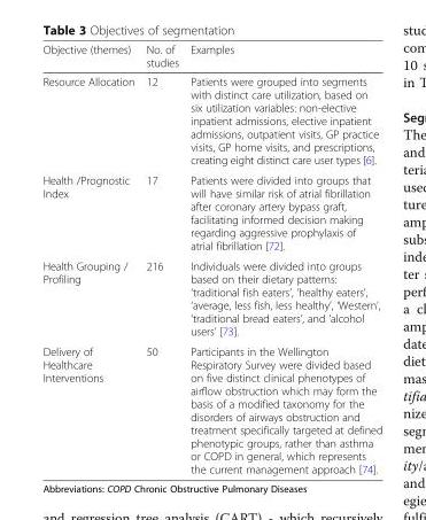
<table><thead><tr><td>Objective (themes)</td><td>No. of studies</td><td>Examples</td></tr></thead><tbody><tr><td>Resource Allocation</td><td>12</td><td>Patients were grouped into segments with distinct care utilization, based on six utilization variables: non-elective inpatient admissions, elective inpatient admissions, outpatient visits, GP practice visits, GP home visits, and prescriptions, creating eight distinct care user types [6].</td></tr><tr><td>Health /Prognostic Index</td><td>17</td><td>Patients were divided into groups that will have similar risk of atrial fibrillation after coronary artery bypass graft, facilitating informed decision making regarding aggressive prophylaxis of atrial fibrillation [72].</td></tr><tr><td>Health Grouping / Profiling</td><td>216</td><td>Individuals were divided into groups based on their dietary patterns: ‘traditional fish eaters’, ‘healthy eaters’, ‘average, less fish, less healthy’, ‘Western’, ‘traditional bread eaters’, and ‘alcohol users’ [73].</td></tr><tr><td>Delivery of Healthcare Interventions</td><td>50</td><td>Participants in the Wellington Respiratory Survey were divided based on five distinct clinical phenotypes of airflow obstruction which may form the basis of a modified taxonomy for the disorders of airways obstruction and treatment specifically targeted at defined phenotypic groups, rather than asthma or COPD in general, which represents the current management approach [74].</td></tr></tbody></table>